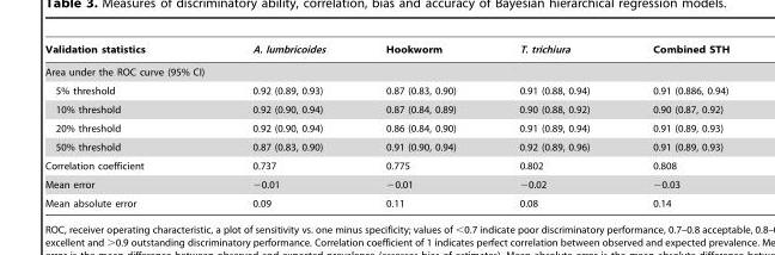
<table><thead><tr><td>Validation statistics</td><td>A. lumbricoides</td><td>Hookworm</td><td>T. trichiura</td><td>Combined STH</td></tr></thead><tbody><tr><td colspan="5">Area under the ROC curve (95% CI)</td></tr><tr><td>5% threshold</td><td>0.92 (0.89, 0.93)</td><td>0.87 (0.83, 0.90)</td><td>0.91 (0.88, 0.94)</td><td>0.91 (0.886, 0.94)</td></tr><tr><td>10% threshold</td><td>0.92 (0.90, 0.94)</td><td>0.87 (0.84, 0.89)</td><td>0.90 (0.88, 0.92)</td><td>0.90 (0.87, 0.92)</td></tr><tr><td>20% threshold</td><td>0.92 (0.90, 0.94)</td><td>0.86 (0.84, 0.90)</td><td>0.91 (0.89, 0.94)</td><td>0.91 (0.89, 0.93)</td></tr><tr><td>50% threshold</td><td>0.87 (0.83, 0.90)</td><td>0.91 (0.90, 0.94)</td><td>0.92 (0.89, 0.96)</td><td>0.91 (0.89, 0.93)</td></tr><tr><td>Correlation coefficient</td><td>0.737</td><td>0.775</td><td>0.802</td><td>0.808</td></tr><tr><td>Mean error</td><td>−0.01</td><td>−0.01</td><td>−0.02</td><td>−0.03</td></tr><tr><td>Mean absolute error</td><td>0.09</td><td>0.11</td><td>0.08</td><td>0.14</td></tr></tbody></table>